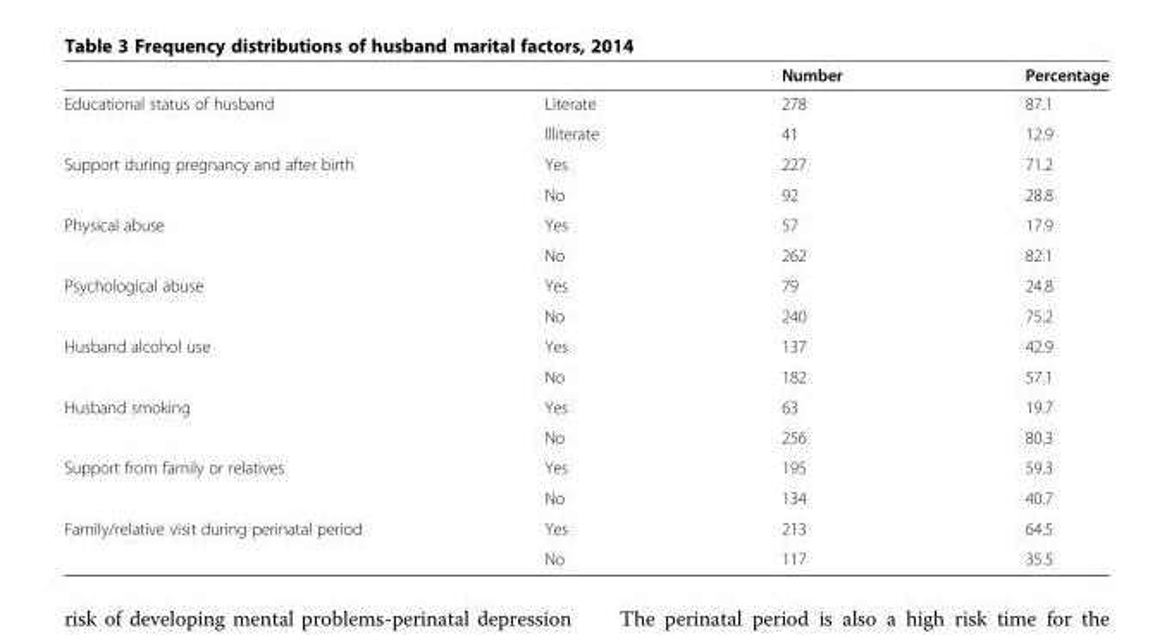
<table><thead><tr><td></td><td></td><td>Number</td><td>Percentage</td></tr></thead><tbody><tr><td rowspan="2">Educational status of husband</td><td>Literate</td><td>278</td><td>87.1</td></tr><tr><td>Illiterate</td><td>41</td><td>12.9</td></tr><tr><td rowspan="2">Support during pregnancy and after birth</td><td>Yes</td><td>227</td><td>71.2</td></tr><tr><td>No</td><td>92</td><td>28.8</td></tr><tr><td rowspan="2">Physical abuse</td><td>Yes</td><td>57</td><td>17.9</td></tr><tr><td>No</td><td>262</td><td>82.1</td></tr><tr><td rowspan="2">Psychological abuse</td><td>Yes</td><td>79</td><td>24.8</td></tr><tr><td>No</td><td>240</td><td>75.2</td></tr><tr><td rowspan="2">Husband alcohol use</td><td>Yes</td><td>137</td><td>42.9</td></tr><tr><td>No</td><td>182</td><td>57.1</td></tr><tr><td rowspan="2">Husband smoking</td><td>Yes</td><td>63</td><td>19.7</td></tr><tr><td>No</td><td>256</td><td>80.3</td></tr><tr><td rowspan="2">Support from family or relatives</td><td>Yes</td><td>195</td><td>59.3</td></tr><tr><td>No</td><td>134</td><td>40.7</td></tr><tr><td rowspan="2">Family/relative visit during perinatal period</td><td>Yes</td><td>213</td><td>64.5</td></tr><tr><td>No</td><td>117</td><td>35.5</td></tr></tbody></table>